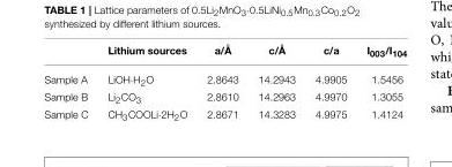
<table><thead><tr><td></td><td>Lithium sources</td><td>a/Å</td><td>c/Å</td><td>c/a</td><td>I<sub>003</sub>/I<sub>104</sub></td></tr></thead><tbody><tr><td>Sample A</td><td>LiOH·H<sub>2</sub>O</td><td>2.8643</td><td>14.2943</td><td>4.9905</td><td>1.5456</td></tr><tr><td>Sample B</td><td>Li<sub>2</sub>CO<sub>3</sub></td><td>2.8610</td><td>14.2963</td><td>4.9970</td><td>1.3055</td></tr><tr><td>Sample C</td><td>CH<sub>3</sub>COOLi·2H<sub>2</sub>O</td><td>2.8671</td><td>14.3283</td><td>4.9975</td><td>1.4124</td></tr></tbody></table>